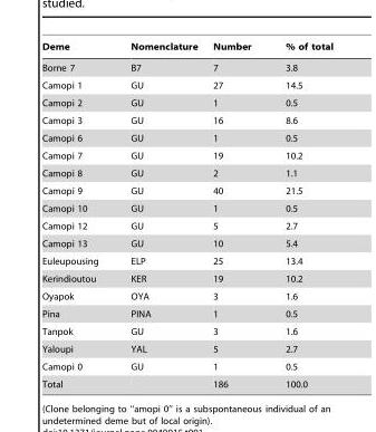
<table><thead><tr><td>Deme</td><td>Nomenclature</td><td>Number</td><td>% of total</td></tr></thead><tbody><tr><td>Borne 7</td><td>B7</td><td>7</td><td>3.8</td></tr><tr><td>Camopi 1</td><td>GU</td><td>27</td><td>14.5</td></tr><tr><td>Camopi 2</td><td>GU</td><td>1</td><td>0.5</td></tr><tr><td>Camopi 3</td><td>GU</td><td>16</td><td>8.6</td></tr><tr><td>Camopi 6</td><td>GU</td><td>1</td><td>0.5</td></tr><tr><td>Camopi 7</td><td>GU</td><td>19</td><td>10.2</td></tr><tr><td>Camopi 8</td><td>GU</td><td>2</td><td>1.1</td></tr><tr><td>Camopi 9</td><td>GU</td><td>40</td><td>21.5</td></tr><tr><td>Camopi 10</td><td>GU</td><td>1</td><td>0.5</td></tr><tr><td>Camopi 12</td><td>GU</td><td>5</td><td>2.7</td></tr><tr><td>Camopi 13</td><td>GU</td><td>10</td><td>5.4</td></tr><tr><td>Euleupousing</td><td>ELP</td><td>25</td><td>13.4</td></tr><tr><td>Kerindioutou</td><td>KER</td><td>19</td><td>10.2</td></tr><tr><td>Oyapok</td><td>OYA</td><td>3</td><td>1.6</td></tr><tr><td>Pina</td><td>PINA</td><td>1</td><td>0.5</td></tr><tr><td>Tanpok</td><td>GU</td><td>3</td><td>1.6</td></tr><tr><td>Yaloupi</td><td>YAL</td><td>5</td><td>2.7</td></tr><tr><td>Camopi 0</td><td>GU</td><td>1</td><td>0.5</td></tr><tr><td>Total</td><td></td><td>186</td><td>100.0</td></tr></tbody></table>